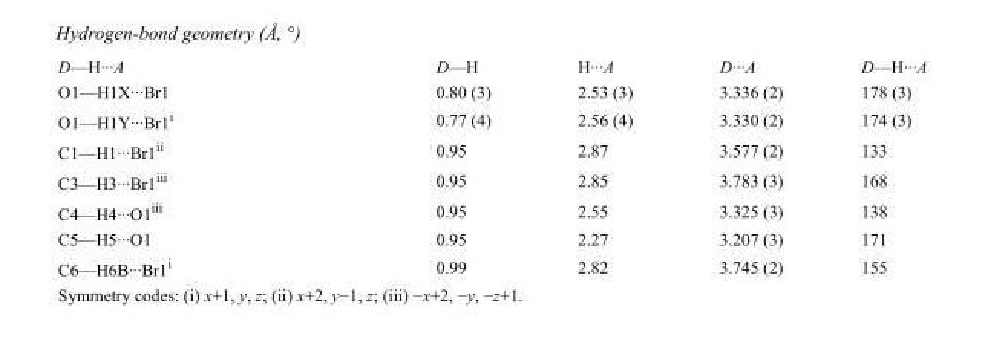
<table><tbody><tr><td>D—H···A</td><td>D—H</td><td>H···A</td><td>D···A</td><td>D—H···A</td></tr><tr><td>O1—H1X···Br1</td><td>0.80 (3)</td><td>2.53 (3)</td><td>3.336 (2)</td><td>178 (3)</td></tr><tr><td>O1—H1Y···Br1<sup>i</sup></td><td>0.77 (4)</td><td>2.56 (4)</td><td>3.330 (2)</td><td>174 (3)</td></tr><tr><td>C1—H1···Br1<sup>ii</sup></td><td>0.95</td><td>2.87</td><td>3.577 (2)</td><td>133</td></tr><tr><td>C3—H3···Br1<sup>iii</sup></td><td>0.95</td><td>2.85</td><td>3.783 (3)</td><td>168</td></tr><tr><td>C4—H4···O1<sup>iii</sup></td><td>0.95</td><td>2.55</td><td>3.325 (3)</td><td>138</td></tr><tr><td>C5—H5···O1</td><td>0.95</td><td>2.27</td><td>3.207 (3)</td><td>171</td></tr><tr><td>C6—H6B···Br1<sup>i</sup></td><td>0.99</td><td>2.82</td><td>3.745 (2)</td><td>155</td></tr></tbody></table>